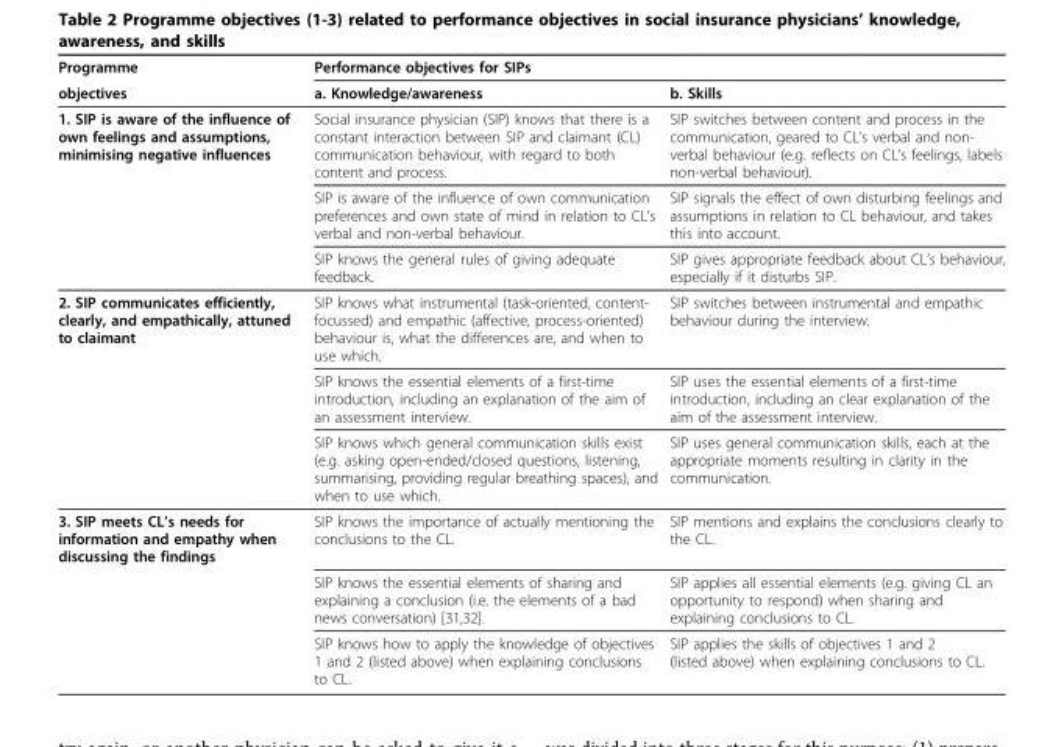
<table><thead><tr><td rowspan="2">Programme objectives</td><td colspan="2">Performance objectives for SIPs</td></tr><tr><td>a. Knowledge/awareness</td><td>b. Skills</td></tr></thead><tbody><tr><td rowspan="3">1. SIP is aware of the influence of own feelings and assumptions, minimising negative influences</td><td>Social insurance physician (SIP) knows that there is a constant interaction between SIP and claimant (CL) communication behaviour, with regard to both content and process.</td><td>SIP switches between content and process in the communication, geared to CL’s verbal and non- verbal behaviour (e.g. reflects on CL’s feelings, labels non-verbal behaviour).</td></tr><tr><td>SIP is aware of the influence of own communication preferences and own state of mind in relation to CL’s verbal and non-verbal behaviour.</td><td>SIP signals the effect of own disturbing feelings and assumptions in relation to CL behaviour, and takes this into account.</td></tr><tr><td>SIP knows the general rules of giving adequate feedback.</td><td>SIP gives appropriate feedback about CL’s behaviour, especially if it disturbs SIP.</td></tr><tr><td rowspan="3">2. SIP communicates efficiently, clearly, and empathically, attuned to claimant</td><td>SIP knows what instrumental (task-oriented, content- focussed) and empathic (affective, process-oriented) behaviour is, what the differences are, and when to use which.</td><td>SIP switches between instrumental and empathic behaviour during the interview.</td></tr><tr><td>SIP knows the essential elements of a first-time introduction, including an explanation of the aim of an assessment interview.</td><td>SIP uses the essential elements of a first-time introduction, including an clear explanation of the aim of the assessment interview.</td></tr><tr><td>SIP knows which general communication skills exist (e.g. asking open-ended/closed questions, listening, summarising, providing regular breathing spaces), and when to use which.</td><td>SIP uses general communication skills, each at the appropriate moments resulting in clarity in the communication.</td></tr><tr><td rowspan="3">3. SIP meets CL’s needs for information and empathy when discussing the findings</td><td>SIP knows the importance of actually mentioning the conclusions to the CL.</td><td>SIP mentions and explains the conclusions clearly to the CL.</td></tr><tr><td>SIP knows the essential elements of sharing and explaining a conclusion (i.e. the elements of a bad news conversation) [31,32].</td><td>SIP applies all essential elements (e.g. giving CL an opportunity to respond) when sharing and explaining conclusions to CL.</td></tr><tr><td>SIP knows how to apply the knowledge of objectives 1 and 2 (listed above) when explaining conclusions to CL.</td><td>SIP applies the skills of objectives 1 and 2 (listed above) when explaining conclusions to CL.</td></tr></tbody></table>